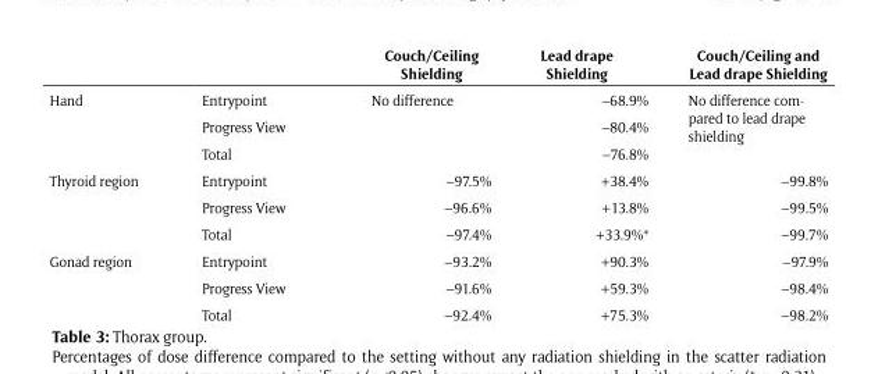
<table><thead><tr><td></td><td></td><td>Couch/Ceiling Shielding</td><td>Lead drape Shielding</td><td>Couch/Ceiling and Lead drape Shielding</td></tr></thead><tbody><tr><td rowspan="3">Hand</td><td>Entrypoint</td><td rowspan="3">No difference</td><td>–68.9%</td><td rowspan="3">No difference com- pared to lead drape shielding</td></tr><tr><td>Progress View</td><td>–80.4%</td></tr><tr><td>Total</td><td>–76.8%</td></tr><tr><td rowspan="3">Thyroid region</td><td>Entrypoint</td><td>–97.5%</td><td>+38.4%</td><td>–99.8%</td></tr><tr><td>Progress View</td><td>–96.6%</td><td>+13.8%</td><td>–99.5%</td></tr><tr><td>Total</td><td>–97.4%</td><td>+33.9%*</td><td>–99.7%</td></tr><tr><td rowspan="3">Gonad region</td><td>Entrypoint</td><td>–93.2%</td><td>+90.3%</td><td>–97.9%</td></tr><tr><td>Progress View</td><td>–91.6%</td><td>+59.3%</td><td>–98.4%</td></tr><tr><td>Total</td><td>–92.4%</td><td>+75.3%</td><td>–98.2%</td></tr></tbody></table>